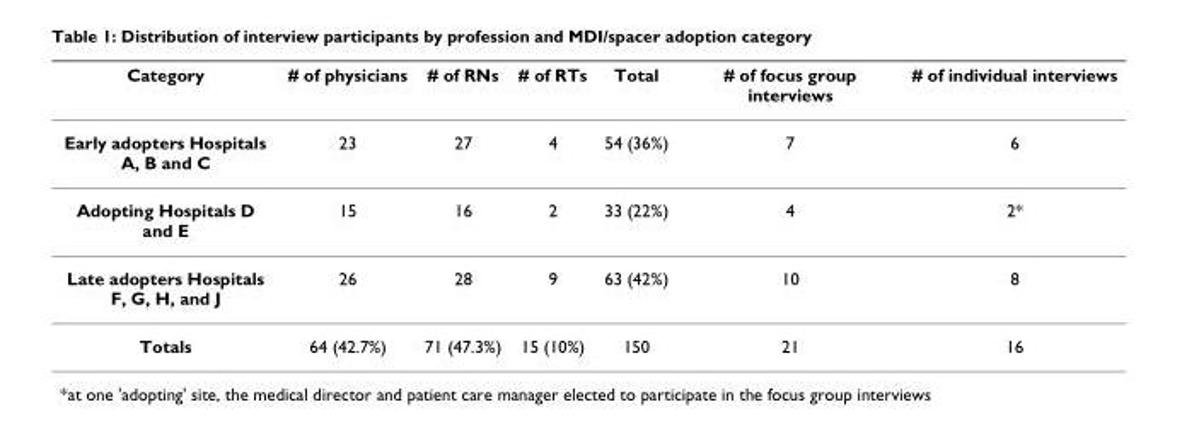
<table><thead><tr><td>Category</td><td># of physicians</td><td># of RNs</td><td># of RTs</td><td>Total</td><td># of focus group interviews</td><td># of individual interviews</td></tr></thead><tbody><tr><td>Early adopters Hospitals A, B and C</td><td>23</td><td>27</td><td>4</td><td>54 (36%)</td><td>7</td><td>6</td></tr><tr><td>Adopting Hospitals D and E</td><td>15</td><td>16</td><td>2</td><td>33 (22%)</td><td>4</td><td>2*</td></tr><tr><td>Late adopters Hospitals F, G, H, and J</td><td>26</td><td>28</td><td>9</td><td>63 (42%)</td><td>10</td><td>8</td></tr><tr><td>Totals</td><td>64 (42.7%)</td><td>71 (47.3%)</td><td>15 (10%)</td><td>150</td><td>21</td><td>16</td></tr></tbody></table>